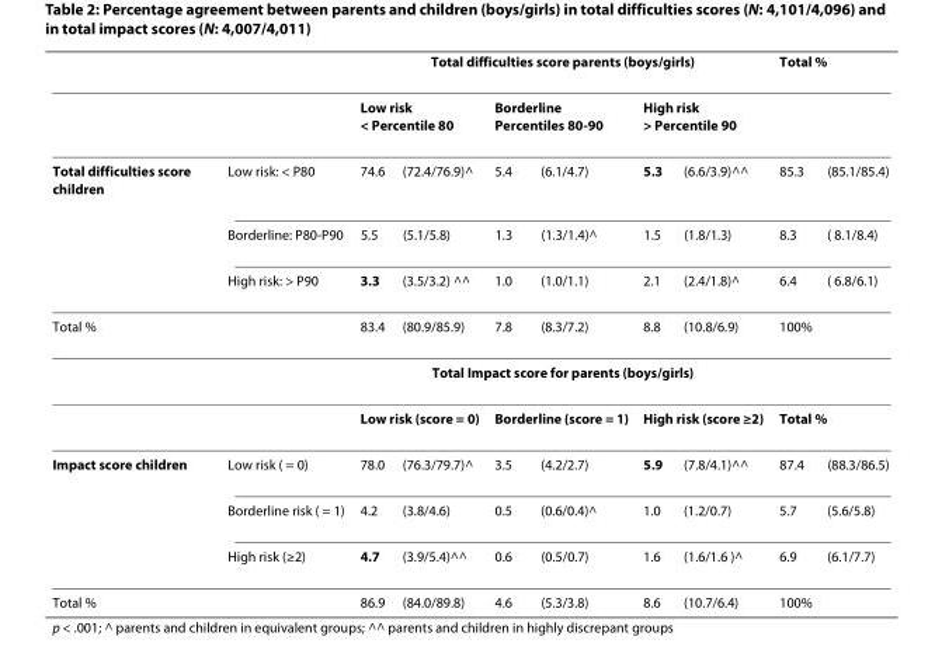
<table><thead><tr><td rowspan="3">Total difficulties score children</td><td rowspan="3">Low risk: &lt; P80</td><td colspan="6">Total difficulties score parents (boys/girls)</td><td colspan="2">Total %</td></tr><tr><td colspan="2">Low risk &lt; Percentile 80</td><td colspan="2">Borderline Percentiles 80-90</td><td colspan="2">High risk &gt; Percentile 90</td><td rowspan="2">85.3</td><td rowspan="2">(85.1/85.4)</td></tr><tr><td>74.6</td><td>(72.4/76.9)^</td><td>5.4</td><td>(6.1/4.7)</td><td>5.3</td><td>(6.6/3.9)^^</td></tr></thead><tbody><tr><td></td><td>Borderline: P80-P90</td><td>5.5</td><td>(5.1/5.8)</td><td>1.3</td><td>(1.3/1.4)^</td><td>1.5</td><td>(1.8/1.3)</td><td>8.3</td><td>( 8.1/8.4)</td></tr><tr><td></td><td>High risk: &gt; P90</td><td>3.3</td><td>(3.5/3.2) ^^</td><td>1.0</td><td>(1.0/1.1)</td><td>2.1</td><td>(2.4/1.8)^</td><td>6.4</td><td>( 6.8/6.1)</td></tr><tr><td rowspan="3">Total %</td><td></td><td>83.4</td><td>(80.9/85.9)</td><td>7.8</td><td>(8.3/7.2)</td><td>8.8</td><td>(10.8/6.9)</td><td>100%</td><td></td></tr><tr><td></td><td colspan="6">Total Impact score for parents (boys/girls)</td><td></td><td></td></tr><tr><td></td><td colspan="2">Low risk (score = 0)</td><td colspan="2">Borderline (score = 1)</td><td colspan="2">High risk (score ≥2)</td><td colspan="2">Total %</td></tr><tr><td rowspan="3">Impact score children</td><td>Low risk ( = 0)</td><td>78.0</td><td>(76.3/79.7)^</td><td>3.5</td><td>(4.2/2.7)</td><td>5.9</td><td>(7.8/4.1)^^</td><td>87.4</td><td>(88.3/86.5)</td></tr><tr><td>Borderline risk ( = 1)</td><td>4.2</td><td>(3.8/4.6)</td><td>0.5</td><td>(0.6/0.4)^</td><td>1.0</td><td>(1.2/0.7)</td><td>5.7</td><td>(5.6/5.8)</td></tr><tr><td>High risk (≥2)</td><td>4.7</td><td>(3.9/5.4)^^</td><td>0.6</td><td>(0.5/0.7)</td><td>1.6</td><td>(1.6/1.6 )^</td><td>6.9</td><td>(6.1/7.7)</td></tr><tr><td>Total %</td><td></td><td>86.9</td><td>(84.0/89.8)</td><td>4.6</td><td>(5.3/3.8)</td><td>8.6</td><td>(10.7/6.4)</td><td>100%</td><td></td></tr></tbody></table>